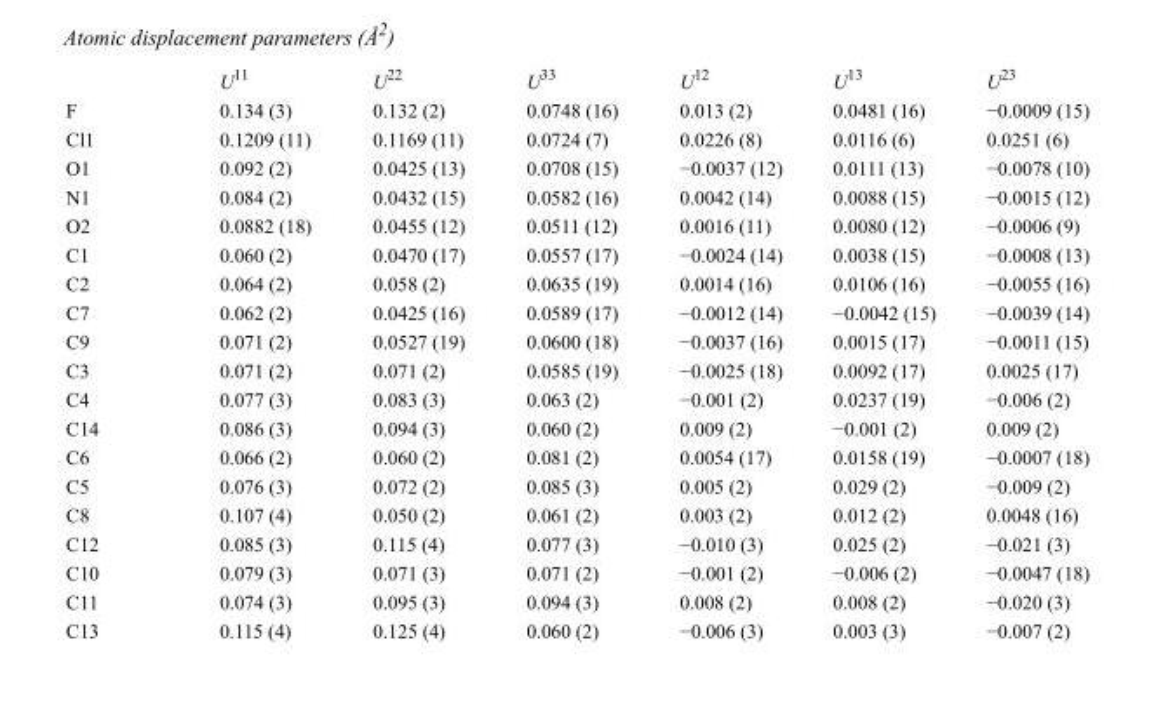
<table><thead><tr><td></td><td>U<sup>11</sup></td><td>U<sup>22</sup></td><td>U<sup>33</sup></td><td>U<sup>12</sup></td><td>U<sup>13</sup></td><td>U<sup>23</sup></td></tr></thead><tbody><tr><td>F</td><td>0.134 (3)</td><td>0.132 (2)</td><td>0.0748 (16)</td><td>0.013 (2)</td><td>0.0481 (16)</td><td>−0.0009 (15)</td></tr><tr><td>Cl1</td><td>0.1209 (11)</td><td>0.1169 (11)</td><td>0.0724 (7)</td><td>0.0226 (8)</td><td>0.0116 (6)</td><td>0.0251 (6)</td></tr><tr><td>O1</td><td>0.092 (2)</td><td>0.0425 (13)</td><td>0.0708 (15)</td><td>−0.0037 (12)</td><td>0.0111 (13)</td><td>−0.0078 (10)</td></tr><tr><td>N1</td><td>0.084 (2)</td><td>0.0432 (15)</td><td>0.0582 (16)</td><td>0.0042 (14)</td><td>0.0088 (15)</td><td>−0.0015 (12)</td></tr><tr><td>O2</td><td>0.0882 (18)</td><td>0.0455 (12)</td><td>0.0511 (12)</td><td>0.0016 (11)</td><td>0.0080 (12)</td><td>−0.0006 (9)</td></tr><tr><td>C1</td><td>0.060 (2)</td><td>0.0470 (17)</td><td>0.0557 (17)</td><td>−0.0024 (14)</td><td>0.0038 (15)</td><td>−0.0008 (13)</td></tr><tr><td>C2</td><td>0.064 (2)</td><td>0.058 (2)</td><td>0.0635 (19)</td><td>0.0014 (16)</td><td>0.0106 (16)</td><td>−0.0055 (16)</td></tr><tr><td>C7</td><td>0.062 (2)</td><td>0.0425 (16)</td><td>0.0589 (17)</td><td>−0.0012 (14)</td><td>−0.0042 (15)</td><td>−0.0039 (14)</td></tr><tr><td>C9</td><td>0.071 (2)</td><td>0.0527 (19)</td><td>0.0600 (18)</td><td>−0.0037 (16)</td><td>0.0015 (17)</td><td>−0.0011 (15)</td></tr><tr><td>C3</td><td>0.071 (2)</td><td>0.071 (2)</td><td>0.0585 (19)</td><td>−0.0025 (18)</td><td>0.0092 (17)</td><td>0.0025 (17)</td></tr><tr><td>C4</td><td>0.077 (3)</td><td>0.083 (3)</td><td>0.063 (2)</td><td>−0.001 (2)</td><td>0.0237 (19)</td><td>−0.006 (2)</td></tr><tr><td>C14</td><td>0.086 (3)</td><td>0.094 (3)</td><td>0.060 (2)</td><td>0.009 (2)</td><td>−0.001 (2)</td><td>0.009 (2)</td></tr><tr><td>C6</td><td>0.066 (2)</td><td>0.060 (2)</td><td>0.081 (2)</td><td>0.0054 (17)</td><td>0.0158 (19)</td><td>−0.0007 (18)</td></tr><tr><td>C5</td><td>0.076 (3)</td><td>0.072 (2)</td><td>0.085 (3)</td><td>0.005 (2)</td><td>0.029 (2)</td><td>−0.009 (2)</td></tr><tr><td>C8</td><td>0.107 (4)</td><td>0.050 (2)</td><td>0.061 (2)</td><td>0.003 (2)</td><td>0.012 (2)</td><td>0.0048 (16)</td></tr><tr><td>C12</td><td>0.085 (3)</td><td>0.115 (4)</td><td>0.077 (3)</td><td>−0.010 (3)</td><td>0.025 (2)</td><td>−0.021 (3)</td></tr><tr><td>C10</td><td>0.079 (3)</td><td>0.071 (3)</td><td>0.071 (2)</td><td>−0.001 (2)</td><td>−0.006 (2)</td><td>−0.0047 (18)</td></tr><tr><td>C11</td><td>0.074 (3)</td><td>0.095 (3)</td><td>0.094 (3)</td><td>0.008 (2)</td><td>0.008 (2)</td><td>−0.020 (3)</td></tr><tr><td>C13</td><td>0.115 (4)</td><td>0.125 (4)</td><td>0.060 (2)</td><td>−0.006 (3)</td><td>0.003 (3)</td><td>−0.007 (2)</td></tr></tbody></table>